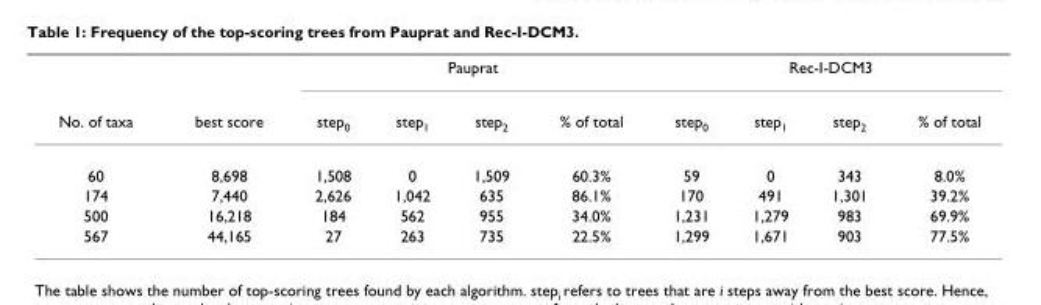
<table><thead><tr><td rowspan="2">No. of taxa</td><td rowspan="2">best score</td><td colspan="4">Pauprat</td><td colspan="4">Rec-I-DCM3</td></tr><tr><td>step<sub>0</sub></td><td>step<sub>1</sub></td><td>step<sub>2</sub></td><td>% of total</td><td>step<sub>0</sub></td><td>step<sub>1</sub></td><td>step<sub>2</sub></td><td>% of total</td></tr></thead><tbody><tr><td>60</td><td>8,698</td><td>1,508</td><td>0</td><td>1,509</td><td>60.3%</td><td>59</td><td>0</td><td>343</td><td>8.0%</td></tr><tr><td>174</td><td>7,440</td><td>2,626</td><td>1,042</td><td>635</td><td>86.1%</td><td>170</td><td>491</td><td>1,301</td><td>39.2%</td></tr><tr><td>500</td><td>16,218</td><td>184</td><td>562</td><td>955</td><td>34.0%</td><td>1,231</td><td>1,279</td><td>983</td><td>69.9%</td></tr><tr><td>567</td><td>44,165</td><td>27</td><td>263</td><td>735</td><td>22.5%</td><td>1,299</td><td>1,671</td><td>903</td><td>77.5%</td></tr></tbody></table>